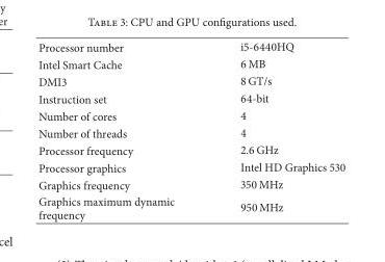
<table><tbody><tr><td>Processor number</td><td>i5-6440HQ</td></tr><tr><td>Intel Smart Cache</td><td>6 MB</td></tr><tr><td>DMI3</td><td>8 GT/s</td></tr><tr><td>Instruction set</td><td>64-bit</td></tr><tr><td>Number of cores</td><td>4</td></tr><tr><td>Number of threads</td><td>4</td></tr><tr><td>Processor frequency</td><td>2.6 GHz</td></tr><tr><td>Processor graphics</td><td>Intel HD Graphics 530</td></tr><tr><td>Graphics frequency</td><td>350 MHz</td></tr><tr><td>Graphics maximum dynamic frequency</td><td>950 MHz</td></tr></tbody></table>